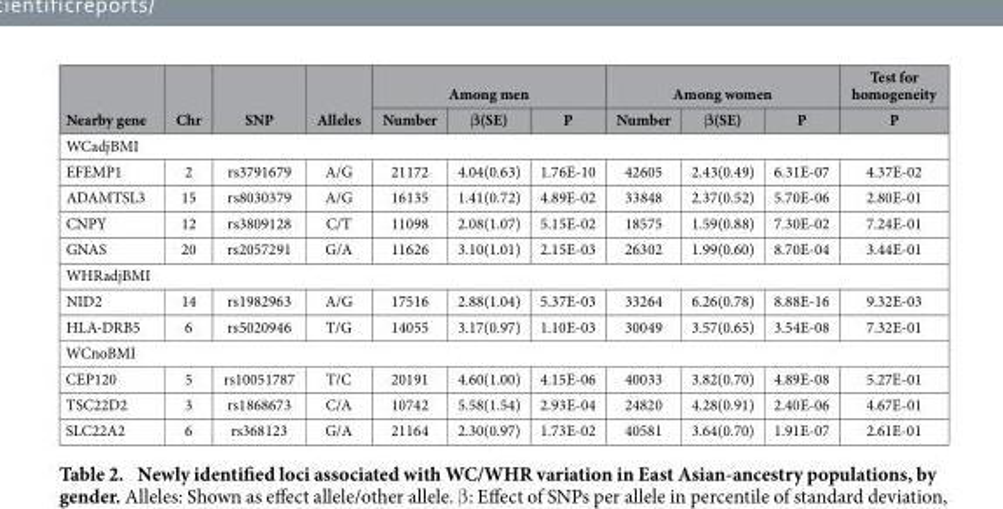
<table><thead><tr><td rowspan="2">Nearby gene</td><td rowspan="2">Chr</td><td rowspan="2">SNP</td><td rowspan="2">Alleles</td><td colspan="3">Among men</td><td colspan="3">Among women</td><td rowspan="2">Test for homogeneity P</td></tr><tr><td>Number</td><td>β(SE)</td><td>P</td><td>Number</td><td>β(SE)</td><td>P</td></tr></thead><tbody><tr><td colspan="11">WCadjBMI</td></tr><tr><td>EFEMP1</td><td>2</td><td>rs3791679</td><td>A/G</td><td>21172</td><td>4.04(0.63)</td><td>1.76E-10</td><td>42605</td><td>2.43(0.49)</td><td>6.31E-07</td><td>4.37E-02</td></tr><tr><td>ADAMTSL3</td><td>15</td><td>rs8030379</td><td>A/G</td><td>16135</td><td>1.41(0.72)</td><td>4.89E-02</td><td>33848</td><td>2.37(0.52)</td><td>5.70E-06</td><td>2.80E-01</td></tr><tr><td>CNPY</td><td>12</td><td>rs3809128</td><td>C/T</td><td>11098</td><td>2.08(1.07)</td><td>5.15E-02</td><td>18575</td><td>1.59(0.88)</td><td>7.30E-02</td><td>7.24E-01</td></tr><tr><td>GNAS</td><td>20</td><td>rs2057291</td><td>G/A</td><td>11626</td><td>3.10(1.01)</td><td>2.15E-03</td><td>26302</td><td>1.99(0.60)</td><td>8.70E-04</td><td>3.44E-01</td></tr><tr><td colspan="11">WHRadjBMI</td></tr><tr><td>NID2</td><td>14</td><td>rs1982963</td><td>A/G</td><td>17516</td><td>2.88(1.04)</td><td>5.37E-03</td><td>33264</td><td>6.26(0.78)</td><td>8.88E-16</td><td>9.32E-03</td></tr><tr><td>HLA-DRB5</td><td>6</td><td>rs5020946</td><td>T/G</td><td>14055</td><td>3.17(0.97)</td><td>1.10E-03</td><td>30049</td><td>3.57(0.65)</td><td>3.54E-08</td><td>7.32E-01</td></tr><tr><td colspan="11">WCnoBMI</td></tr><tr><td>CEP120</td><td>5</td><td>rs10051787</td><td>T/C</td><td>20191</td><td>4.60(1.00)</td><td>4.15E-06</td><td>40033</td><td>3.82(0.70)</td><td>4.89E-08</td><td>5.27E-01</td></tr><tr><td>TSC22D2</td><td>3</td><td>rs1868673</td><td>C/A</td><td>10742</td><td>5.58(1.54)</td><td>2.93E-04</td><td>24820</td><td>4.28(0.91)</td><td>2.40E-06</td><td>4.67E-01</td></tr><tr><td>SLC22A2</td><td>6</td><td>rs368123</td><td>G/A</td><td>21164</td><td>2.30(0.97)</td><td>1.73E-02</td><td>40581</td><td>3.64(0.70)</td><td>1.91E-07</td><td>2.61E-01</td></tr></tbody></table>